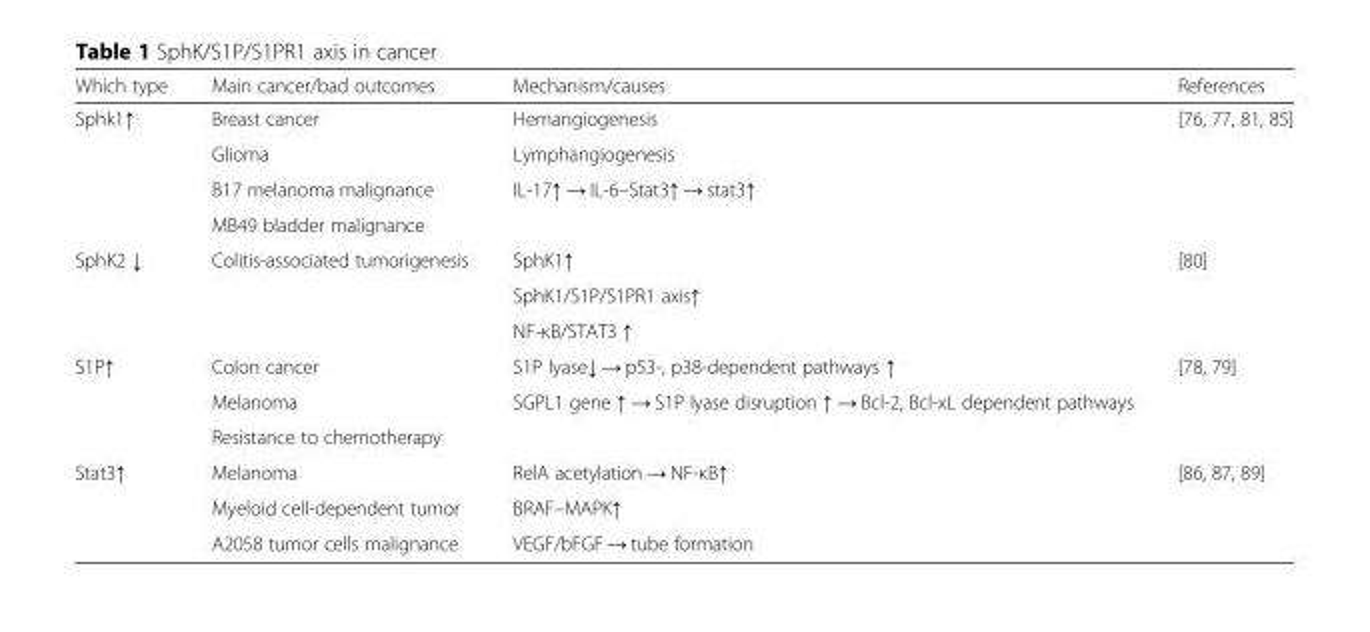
<table><thead><tr><td>Which type</td><td>Main cancer/bad outcomes</td><td>Mechanism/causes</td><td>References</td></tr></thead><tbody><tr><td rowspan="4">Sphk1↑</td><td>Breast cancer</td><td>Hemangiogenesis</td><td rowspan="4">[76, 77, 81, 85]</td></tr><tr><td>Glioma</td><td>Lymphangiogenesis</td></tr><tr><td>B17 melanoma malignance</td><td rowspan="2">IL-17↑ → IL-6–Stat3↑ → stat3↑</td></tr><tr><td>MB49 bladder malignance</td></tr><tr><td rowspan="3">SphK2 ↓</td><td rowspan="3">Colitis-associated tumorigenesis</td><td>SphK1↑</td><td rowspan="3">[80]</td></tr><tr><td>SphK1/S1P/S1PR1 axis↑</td></tr><tr><td>NF-κB/STAT3 ↑</td></tr><tr><td rowspan="3">S1P↑</td><td>Colon cancer</td><td>S1P lyase↓ → p53-, p38-dependent pathways ↑</td><td rowspan="3">[78, 79]</td></tr><tr><td>Melanoma</td><td rowspan="2">SGPL1 gene ↑ → S1P lyase disruption ↑ → Bcl-2, Bcl-xL dependent pathways</td></tr><tr><td>Resistance to chemotherapy</td></tr><tr><td rowspan="3">Stat3↑</td><td>Melanoma</td><td>RelA acetylation → NF-κB↑</td><td rowspan="3">[86, 87, 89]</td></tr><tr><td>Myeloid cell-dependent tumor</td><td>BRAF–MAPK↑</td></tr><tr><td>A2058 tumor cells malignance</td><td>VEGF/bFGF → tube formation</td></tr></tbody></table>